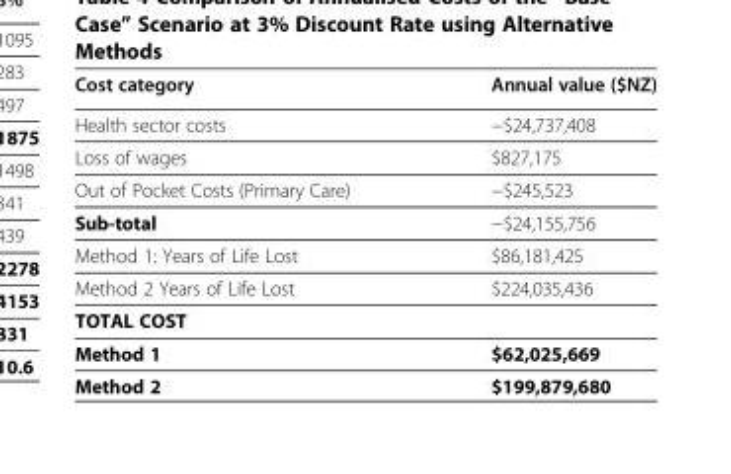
<table><thead><tr><td>Cost category</td><td>Annual value ($NZ)</td></tr></thead><tbody><tr><td>Health sector costs</td><td>−$24,737,408</td></tr><tr><td>Loss of wages</td><td>$827,175</td></tr><tr><td>Out of Pocket Costs (Primary Care)</td><td>−$245,523</td></tr><tr><td>Sub-total</td><td>−$24,155,756</td></tr><tr><td>Method 1: Years of Life Lost</td><td>$86,181,425</td></tr><tr><td>Method 2 Years of Life Lost</td><td>$224,035,436</td></tr><tr><td colspan="2">TOTAL COST</td></tr><tr><td>Method 1</td><td>$62,025,669</td></tr><tr><td>Method 2</td><td>$199,879,680</td></tr></tbody></table>